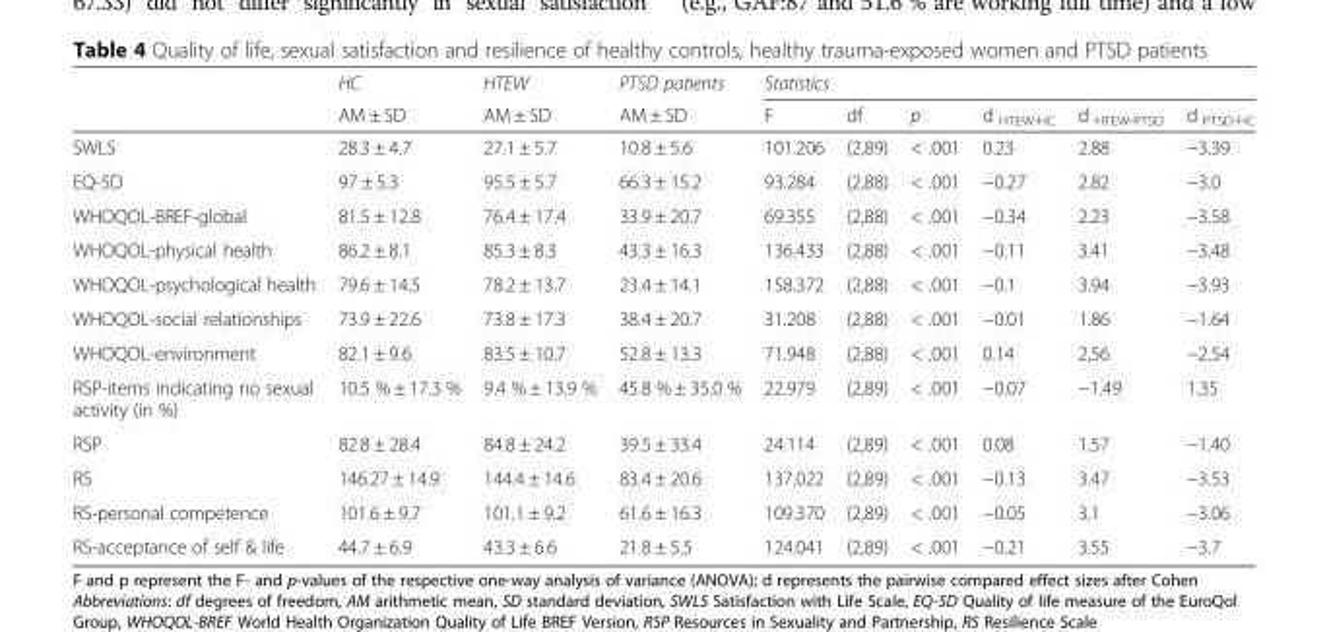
<table><thead><tr><td rowspan="2"></td><td rowspan="2">HC AM ± SD</td><td rowspan="2">HTEW AM ± SD</td><td rowspan="2">PTSD patients AM ± SD</td><td colspan="6">Statistics</td></tr><tr><td>F</td><td>df</td><td>p</td><td>d <sub>HTEW-HC</sub></td><td>d <sub>HTEW-PTSD</sub></td><td>d <sub>PTSD-HC</sub></td></tr></thead><tbody><tr><td>SWLS</td><td>28.3 ± 4.7</td><td>27.1 ± 5.7</td><td>10.8 ± 5.6</td><td>101.206</td><td>(2,89)</td><td>&lt; .001</td><td>0.23</td><td>2.88</td><td>−3.39</td></tr><tr><td>EQ-5D</td><td>97 ± 5.3</td><td>95.5 ± 5.7</td><td>66.3 ± 15.2</td><td>93.284</td><td>(2,88)</td><td>&lt; .001</td><td>−0.27</td><td>2.82</td><td>−3.0</td></tr><tr><td>WHOQOL-BREF-global</td><td>81.5 ± 12.8</td><td>76.4 ± 17.4</td><td>33.9 ± 20.7</td><td>69.355</td><td>(2,88)</td><td>&lt; .001</td><td>−0.34</td><td>2.23</td><td>−3.58</td></tr><tr><td>WHOQOL-physical health</td><td>86.2 ± 8.1</td><td>85.3 ± 8.3</td><td>43.3 ± 16.3</td><td>136.433</td><td>(2,88)</td><td>&lt; .001</td><td>−0.11</td><td>3.41</td><td>−3.48</td></tr><tr><td>WHOQOL-psychological health</td><td>79.6 ± 14.5</td><td>78.2 ± 13.7</td><td>23.4 ± 14.1</td><td>158.372</td><td>(2,88)</td><td>&lt; .001</td><td>−0.1</td><td>3.94</td><td>−3.93</td></tr><tr><td>WHOQOL-social relationships</td><td>73.9 ± 22.6</td><td>73.8 ± 17.3</td><td>38.4 ± 20.7</td><td>31.208</td><td>(2,88)</td><td>&lt; .001</td><td>−0.01</td><td>1.86</td><td>−1.64</td></tr><tr><td>WHOQOL-environment</td><td>82.1 ± 9.6</td><td>83.5 ± 10.7</td><td>52.8 ± 13.3</td><td>71.948</td><td>(2,88)</td><td>&lt; .001</td><td>0.14</td><td>2,56</td><td>−2.54</td></tr><tr><td>RSP-items indicating no sexual activity (in %)</td><td>10.5 % ± 17.3 %</td><td>9.4 % ± 13.9 %</td><td>45.8 % ± 35.0 %</td><td>22.979</td><td>(2,89)</td><td>&lt; .001</td><td>−0.07</td><td>−1.49</td><td>1.35</td></tr><tr><td>RSP</td><td>82.8 ± 28.4</td><td>84.8 ± 24.2</td><td>39.5 ± 33.4</td><td>24.114</td><td>(2,89)</td><td>&lt; .001</td><td>0.08</td><td>1.57</td><td>−1.40</td></tr><tr><td>RS</td><td>146.27 ± 14.9</td><td>144.4 ± 14.6</td><td>83.4 ± 20.6</td><td>137.022</td><td>(2,89)</td><td>&lt; .001</td><td>−0.13</td><td>3.47</td><td>−3.53</td></tr><tr><td>RS-personal competence</td><td>101.6 ± 9.7</td><td>101.1 ± 9.2</td><td>61.6 ± 16.3</td><td>109.370</td><td>(2,89)</td><td>&lt; .001</td><td>−0.05</td><td>3.1</td><td>−3.06</td></tr><tr><td>RS-acceptance of self &amp; life</td><td>44.7 ± 6.9</td><td>43.3 ± 6.6</td><td>21.8 ± 5.5</td><td>124.041</td><td>(2,89)</td><td>&lt; .001</td><td>−0.21</td><td>3.55</td><td>−3.7</td></tr></tbody></table>